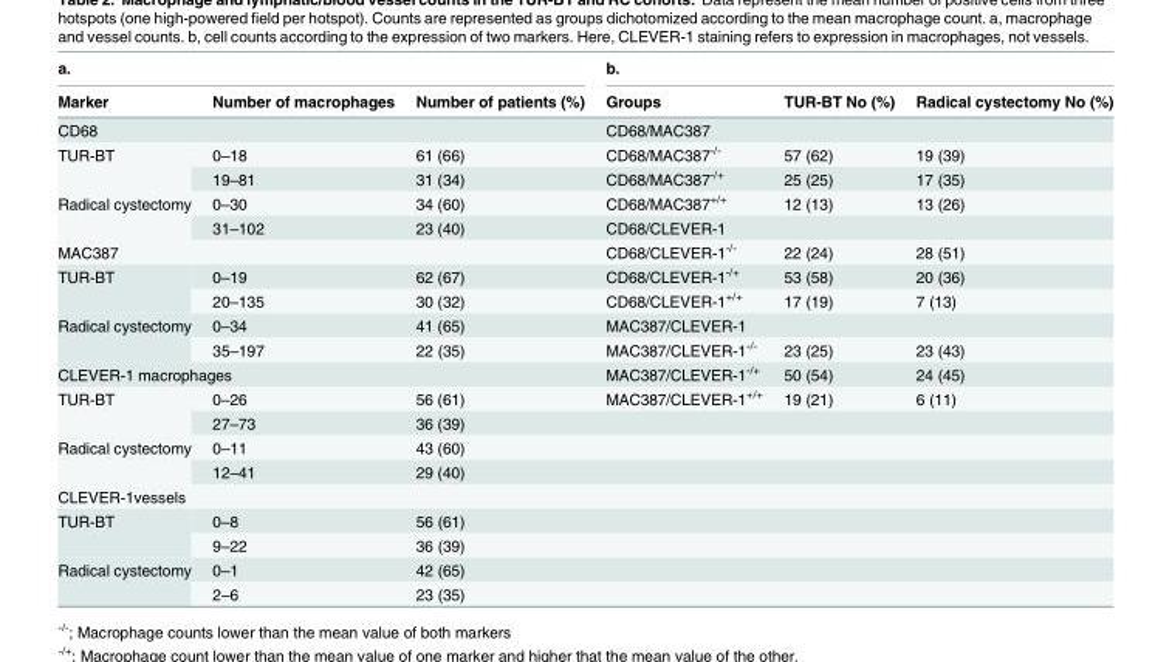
<table><thead><tr><td colspan="3">a.</td><td colspan="3">b.</td></tr><tr><td>Marker</td><td>Number of macrophages</td><td>Number of patients (%)</td><td>Groups</td><td>TUR-BT No (%)</td><td>Radical cystectomy No (%)</td></tr></thead><tbody><tr><td colspan="3">CD68</td><td colspan="3">CD68/MAC387</td></tr><tr><td rowspan="2">TUR-BT</td><td>0–18</td><td>61 (66)</td><td>CD68/MAC387<sup>-/-</sup></td><td>57 (62)</td><td>19 (39)</td></tr><tr><td>19–81</td><td>31 (34)</td><td>CD68/MAC387<sup>-/+</sup></td><td>25 (25)</td><td>17 (35)</td></tr><tr><td rowspan="2">Radical cystectomy</td><td>0–30</td><td>34 (60)</td><td>CD68/MAC387<sup>+/+</sup></td><td>12 (13)</td><td>13 (26)</td></tr><tr><td>31–102</td><td>23 (40)</td><td colspan="3">CD68/CLEVER-1</td></tr><tr><td colspan="3">MAC387</td><td>CD68/CLEVER-1<sup>-/-</sup></td><td>22 (24)</td><td>28 (51)</td></tr><tr><td rowspan="2">TUR-BT</td><td>0–19</td><td>62 (67)</td><td>CD68/CLEVER-1<sup>-/+</sup></td><td>53 (58)</td><td>20 (36)</td></tr><tr><td>20–135</td><td>30 (32)</td><td>CD68/CLEVER-1<sup>+/+</sup></td><td>17 (19)</td><td>7 (13)</td></tr><tr><td rowspan="2">Radical cystectomy</td><td>0–34</td><td>41 (65)</td><td colspan="3">MAC387/CLEVER-1</td></tr><tr><td>35–197</td><td>22 (35)</td><td>MAC387/CLEVER-1<sup>-/-</sup></td><td>23 (25)</td><td>23 (43)</td></tr><tr><td colspan="3">CLEVER-1 macrophages</td><td>MAC387/CLEVER-1<sup>-/+</sup></td><td>50 (54)</td><td>24 (45)</td></tr><tr><td rowspan="2">TUR-BT</td><td>0–26</td><td>56 (61)</td><td>MAC387/CLEVER-1<sup>+/+</sup></td><td>19 (21)</td><td>6 (11)</td></tr><tr><td>27–73</td><td>36 (39)</td><td></td><td></td><td></td></tr><tr><td rowspan="2">Radical cystectomy</td><td>0–11</td><td>43 (60)</td><td></td><td></td><td></td></tr><tr><td>12–41</td><td>29 (40)</td><td></td><td></td><td></td></tr><tr><td colspan="6">CLEVER-1vessels</td></tr><tr><td rowspan="2">TUR-BT</td><td>0–8</td><td>56 (61)</td><td></td><td></td><td></td></tr><tr><td>9–22</td><td>36 (39)</td><td></td><td></td><td></td></tr><tr><td rowspan="2">Radical cystectomy</td><td>0–1</td><td>42 (65)</td><td></td><td></td><td></td></tr><tr><td>2–6</td><td>23 (35)</td><td></td><td></td><td></td></tr></tbody></table>